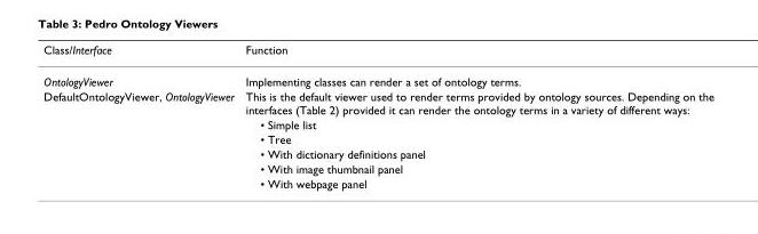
<table><thead><tr><td>Class/Interface</td><td>Function</td></tr></thead><tbody><tr><td>OntologyViewer</td><td>Implementing classes can render a set of ontology terms.</td></tr><tr><td rowspan="6">DefaultOntologyViewer, OntologyViewer</td><td>This is the default viewer used to render terms provided by ontology sources. Depending on the interfaces (Table 2) provided it can render the ontology terms in a variety of different ways:</td></tr><tr><td>• Simple list</td></tr><tr><td>• Tree</td></tr><tr><td>• With dictionary definitions panel</td></tr><tr><td>• With image thumbnail panel</td></tr><tr><td>• With webpage panel</td></tr></tbody></table>